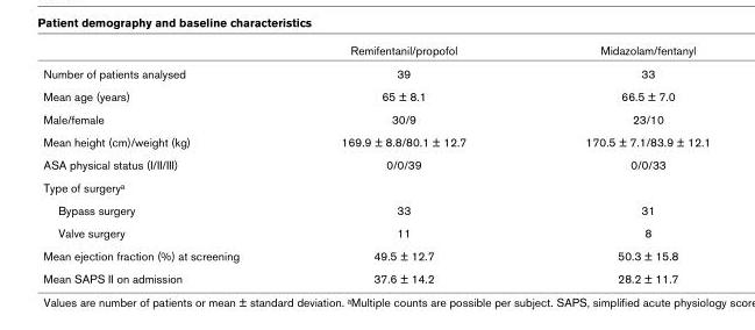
<table><thead><tr><td></td><td>Remifentanil/propofol</td><td>Midazolam/fentanyl</td></tr></thead><tbody><tr><td>Number of patients analysed</td><td>39</td><td>33</td></tr><tr><td>Mean age (years)</td><td>65 ± 8.1</td><td>66.5 ± 7.0</td></tr><tr><td>Male/female</td><td>30/9</td><td>23/10</td></tr><tr><td>Mean height (cm)/weight (kg)</td><td>169.9 ± 8.8/80.1 ± 12.7</td><td>170.5 ± 7.1/83.9 ± 12.1</td></tr><tr><td>ASA physical status (I/II/III)</td><td>0/0/39</td><td>0/0/33</td></tr><tr><td colspan="3">Type of surgerya</td></tr><tr><td>Bypass surgery</td><td>33</td><td>31</td></tr><tr><td>Valve surgery</td><td>11</td><td>8</td></tr><tr><td>Mean ejection fraction (%) at screening</td><td>49.5 ± 12.7</td><td>50.3 ± 15.8</td></tr><tr><td>Mean SAPS II on admission</td><td>37.6 ± 14.2</td><td>28.2 ± 11.7</td></tr></tbody></table>